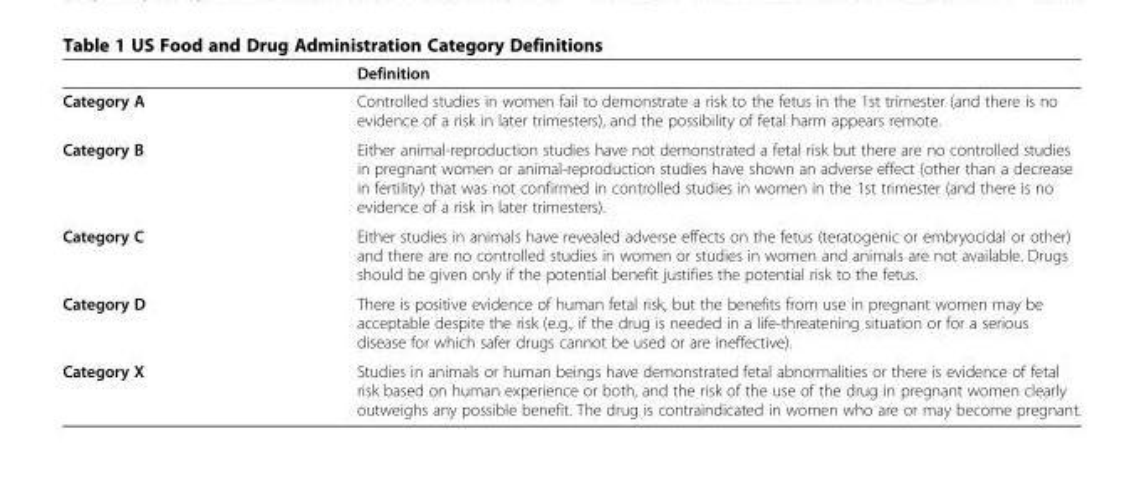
<table><thead><tr><td></td><td>Definition</td></tr></thead><tbody><tr><td>Category A</td><td>Controlled studies in women fail to demonstrate a risk to the fetus in the 1st trimester (and there is no evidence of a risk in later trimesters), and the possibility of fetal harm appears remote.</td></tr><tr><td>Category B</td><td>Either animal-reproduction studies have not demonstrated a fetal risk but there are no controlled studies in pregnant women or animal-reproduction studies have shown an adverse effect (other than a decrease in fertility) that was not confirmed in controlled studies in women in the 1st trimester (and there is no evidence of a risk in later trimesters).</td></tr><tr><td>Category C</td><td>Either studies in animals have revealed adverse effects on the fetus (teratogenic or embryocidal or other) and there are no controlled studies in women or studies in women and animals are not available. Drugs should be given only if the potential benefit justifies the potential risk to the fetus.</td></tr><tr><td>Category D</td><td>There is positive evidence of human fetal risk, but the benefits from use in pregnant women may be acceptable despite the risk (e.g., if the drug is needed in a life-threatening situation or for a serious disease for which safer drugs cannot be used or are ineffective).</td></tr><tr><td>Category X</td><td>Studies in animals or human beings have demonstrated fetal abnormalities or there is evidence of fetal risk based on human experience or both, and the risk of the use of the drug in pregnant women clearly outweighs any possible benefit. The drug is contraindicated in women who are or may become pregnant.</td></tr></tbody></table>